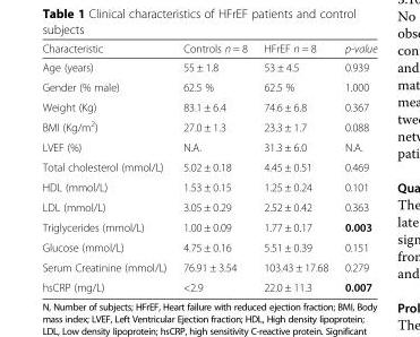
<table><thead><tr><td>Characteristic</td><td>Controls n = 8</td><td>HFrEF n = 8</td><td>p-value</td></tr></thead><tbody><tr><td>Age (years)</td><td>55 ± 1.8</td><td>53 ± 4.5</td><td>0.939</td></tr><tr><td>Gender (% male)</td><td>62.5 %</td><td>62.5 %</td><td>1.000</td></tr><tr><td>Weight (Kg)</td><td>83.1 ± 6.4</td><td>74.6 ± 6.8</td><td>0.367</td></tr><tr><td>BMI (Kg/m<sup>2</sup>)</td><td>27.0 ± 1.3</td><td>23.3 ± 1.7</td><td>0.088</td></tr><tr><td>LVEF (%)</td><td>N.A.</td><td>31.3 ± 6.0</td><td>N.A.</td></tr><tr><td>Total cholesterol (mmol/L)</td><td>5.02 ± 0.18</td><td>4.45 ± 0.51</td><td>0.469</td></tr><tr><td>HDL (mmol/L)</td><td>1.53 ± 0.15</td><td>1.25 ± 0.24</td><td>0.101</td></tr><tr><td>LDL (mmol/L)</td><td>3.05 ± 0.29</td><td>2.52 ± 0.42</td><td>0.363</td></tr><tr><td>Triglycerides (mmol/L)</td><td>1.00 ± 0.09</td><td>1.77 ± 0.17</td><td>0.003</td></tr><tr><td>Glucose (mmol/L)</td><td>4.75 ± 0.16</td><td>5.51 ± 0.39</td><td>0.151</td></tr><tr><td>Serum Creatinine (mmol/L)</td><td>76.91 ± 3.54</td><td>103.43 ± 17.68</td><td>0.279</td></tr><tr><td>hsCRP (mg/L)</td><td>&lt;2.9</td><td>22.0 ± 11.3</td><td>0.007</td></tr></tbody></table>